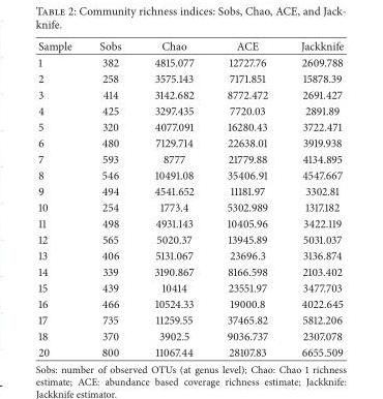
<table><thead><tr><td>Sample</td><td>Sobs</td><td>Chao</td><td>ACE</td><td>Jackknife</td></tr></thead><tbody><tr><td>1</td><td>382</td><td>4815.077</td><td>12727.76</td><td>2609.788</td></tr><tr><td>2</td><td>258</td><td>3575.143</td><td>7171.851</td><td>15878.39</td></tr><tr><td>3</td><td>414</td><td>3142.682</td><td>8772.472</td><td>2691.427</td></tr><tr><td>4</td><td>425</td><td>3297.435</td><td>7720.03</td><td>2891.89</td></tr><tr><td>5</td><td>320</td><td>4077.091</td><td>16280.43</td><td>3722.471</td></tr><tr><td>6</td><td>480</td><td>7129.714</td><td>22638.01</td><td>3919.938</td></tr><tr><td>7</td><td>593</td><td>8777</td><td>21779.88</td><td>4134.895</td></tr><tr><td>8</td><td>546</td><td>10491.08</td><td>35406.91</td><td>4547.667</td></tr><tr><td>9</td><td>494</td><td>4541.652</td><td>11181.97</td><td>3302.81</td></tr><tr><td>10</td><td>254</td><td>1773.4</td><td>5302.989</td><td>1317.182</td></tr><tr><td>11</td><td>498</td><td>4931.143</td><td>10405.96</td><td>3422.119</td></tr><tr><td>12</td><td>565</td><td>5020.37</td><td>13945.89</td><td>5031.037</td></tr><tr><td>13</td><td>406</td><td>5131.067</td><td>23696.3</td><td>3136.874</td></tr><tr><td>14</td><td>339</td><td>3190.867</td><td>8166.598</td><td>2103.402</td></tr><tr><td>15</td><td>439</td><td>10414</td><td>23551.97</td><td>3477.703</td></tr><tr><td>16</td><td>466</td><td>10524.33</td><td>19000.8</td><td>4022.645</td></tr><tr><td>17</td><td>735</td><td>11259.55</td><td>37465.82</td><td>5812.206</td></tr><tr><td>18</td><td>370</td><td>3902.5</td><td>9036.737</td><td>2307.078</td></tr><tr><td>20</td><td>800</td><td>11067.44</td><td>28107.83</td><td>6655.509</td></tr></tbody></table>